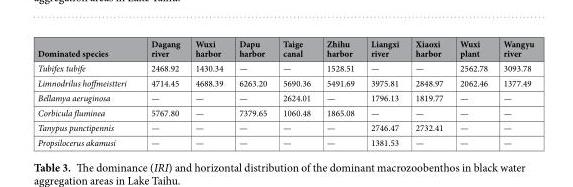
<table><thead><tr><td>Dominated species</td><td>Dagang river</td><td>Wuxi harbor</td><td>Dapu harbor</td><td>Taige canal</td><td>Zhihu harbor</td><td>Liangxi river</td><td>Xiaoxi harbor</td><td>Wuxi plant</td><td>Wangyu river</td></tr></thead><tbody><tr><td>Tubifex tubife</td><td>2468.92</td><td>1430.34</td><td>—</td><td>—</td><td>1528.51</td><td>—</td><td>—</td><td>2562.78</td><td>3093.78</td></tr><tr><td>Limnodrilus hoffmeistteri</td><td>4714.45</td><td>4688.39</td><td>6263.20</td><td>5690.36</td><td>5491.69</td><td>3975.81</td><td>2848.97</td><td>2062.46</td><td>1377.49</td></tr><tr><td>Bellamya aeruginosa</td><td>—</td><td>—</td><td>—</td><td>2624.01</td><td>—</td><td>1796.13</td><td>1819.77</td><td>—</td><td>—</td></tr><tr><td>Corbicula fluminea</td><td>5767.80</td><td>—</td><td>7379.65</td><td>1060.48</td><td>1865.08</td><td>—</td><td>—</td><td>—</td><td>—</td></tr><tr><td>Tanypus punctipennis</td><td>—</td><td>—</td><td>—</td><td>—</td><td>—</td><td>2746.47</td><td>2732.41</td><td>—</td><td>—</td></tr><tr><td>Propsilocerus akamusi</td><td>—</td><td>—</td><td>—</td><td>—</td><td>—</td><td>1381.53</td><td>—</td><td>—</td><td>—</td></tr></tbody></table>